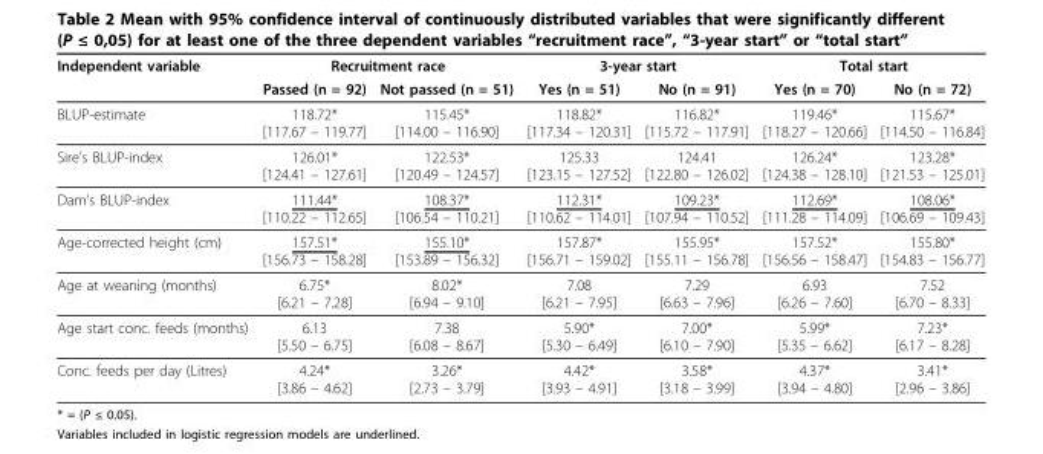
<table><thead><tr><td rowspan="2">Independent variable</td><td colspan="2">Recruitment race</td><td colspan="2">3-year start</td><td colspan="2">Total start</td></tr><tr><td>Passed (n = 92)</td><td>Not passed (n = 51)</td><td>Yes (n = 51)</td><td>No (n = 91)</td><td>Yes (n = 70)</td><td>No (n = 72)</td></tr></thead><tbody><tr><td>BLUP-estimate</td><td>118.72* [117.67 – 119.77]</td><td>115.45* [114.00 – 116.90]</td><td>118.82* [117.34 – 120.31]</td><td>116.82* [115.72 – 117.91]</td><td>119.46* [118.27 – 120.66]</td><td>115.67* [114.50 – 116.84]</td></tr><tr><td>Sire’s BLUP-index</td><td>126.01* [124.41 – 127.61]</td><td>122.53* [120.49 – 124.57]</td><td>125.33 [123.15 – 127.52]</td><td>124.41 [122.80 – 126.02]</td><td>126.24* [124.38 – 128.10]</td><td>123.28* [121.53 – 125.01]</td></tr><tr><td>Dam’s BLUP-index</td><td>111.44* [110.22 – 112.65]</td><td>108.37* [106.54 – 110.21]</td><td>112.31* [110.62 – 114.01]</td><td>109.23* [107.94 – 110.52]</td><td>112.69* [111.28 – 114.09]</td><td>108.06* [106.69 – 109.43]</td></tr><tr><td>Age-corrected height (cm)</td><td>157.51* [156.73 – 158.28]</td><td>155.10* [153.89 – 156.32]</td><td>157.87* [156.71 – 159.02]</td><td>155.95* [155.11 – 156.78]</td><td>157.52* [156.56 – 158.47]</td><td>155.80* [154.83 – 156.77]</td></tr><tr><td>Age at weaning (months)</td><td>6.75* [6.21 – 7.28]</td><td>8.02* [6.94 – 9.10]</td><td>7.08 [6.21 – 7.95]</td><td>7.29 [6.63 – 7.96]</td><td>6.93 [6.26 – 7.60]</td><td>7.52 [6.70 – 8.33]</td></tr><tr><td>Age start conc. feeds (months)</td><td>6.13 [5.50 – 6.75]</td><td>7.38 [6.08 – 8.67]</td><td>5.90* [5.30 – 6.49]</td><td>7.00* [6.10 – 7.90]</td><td>5.99* [5.35 – 6.62]</td><td>7.23* [6.17 – 8.28]</td></tr><tr><td>Conc. feeds per day (Litres)</td><td>4.24* [3.86 – 4.62]</td><td>3.26* [2.73 – 3.79]</td><td>4.42* [3.93 – 4.91]</td><td>3.58* [3.18 – 3.99]</td><td>4.37* [3.94 – 4.80]</td><td>3.41* [2.96 – 3.86]</td></tr></tbody></table>